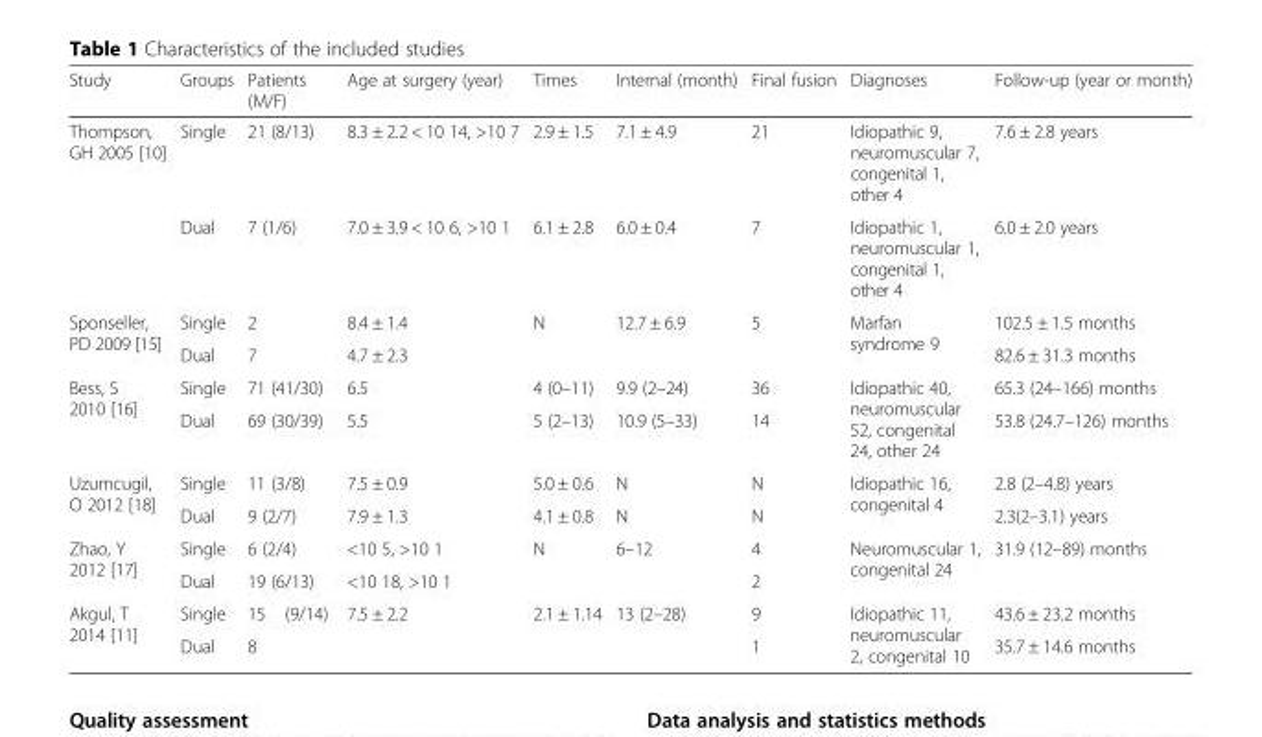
<table><thead><tr><td>Study</td><td>Groups</td><td colspan="2">Patients (M/F)</td><td>Age at surgery (year)</td><td>Times</td><td>Internal (month)</td><td>Final fusion</td><td>Diagnoses</td><td>Follow-up (year or month)</td></tr></thead><tbody><tr><td rowspan="2">Thompson, GH 2005 [10]</td><td>Single</td><td colspan="2">21 (8/13)</td><td>8.3 ± 2.2 &lt; 10 14, &gt;10 7</td><td>2.9 ± 1.5</td><td>7.1 ± 4.9</td><td>21</td><td>Idiopathic 9, neuromuscular 7, congenital 1, other 4</td><td>7.6 ± 2.8 years</td></tr><tr><td>Dual</td><td colspan="2">7 (1/6)</td><td>7.0 ± 3.9 &lt; 10 6, &gt;10 1</td><td>6.1 ± 2.8</td><td>6.0 ± 0.4</td><td>7</td><td>Idiopathic 1, neuromuscular 1, congenital 1, other 4</td><td>6.0 ± 2.0 years</td></tr><tr><td rowspan="2">Sponseller, PD 2009 [15]</td><td>Single</td><td colspan="2">2</td><td>8.4 ± 1.4</td><td rowspan="2">N</td><td rowspan="2">12.7 ± 6.9</td><td rowspan="2">5</td><td rowspan="2">Marfan syndrome 9</td><td>102.5 ± 1.5 months</td></tr><tr><td>Dual</td><td colspan="2">7</td><td>4.7 ± 2.3</td><td>82.6 ± 31.3 months</td></tr><tr><td rowspan="2">Bess, S 2010 [16]</td><td>Single</td><td colspan="2">71 (41/30)</td><td>6.5</td><td>4 (0–11)</td><td>9.9 (2–24)</td><td>36</td><td rowspan="2">Idiopathic 40, neuromuscular 52, congenital 24, other 24</td><td>65.3 (24–166) months</td></tr><tr><td>Dual</td><td colspan="2">69 (30/39)</td><td>5.5</td><td>5 (2–13)</td><td>10.9 (5–33)</td><td>14</td><td>53.8 (24.7–126) months</td></tr><tr><td rowspan="2">Uzumcugil, O 2012 [18]</td><td>Single</td><td colspan="2">11 (3/8)</td><td>7.5 ± 0.9</td><td>5.0 ± 0.6</td><td>N</td><td>N</td><td rowspan="2">Idiopathic 16, congenital 4</td><td>2.8 (2–4.8) years</td></tr><tr><td>Dual</td><td colspan="2">9 (2/7)</td><td>7.9 ± 1.3</td><td>4.1 ± 0.8</td><td>N</td><td>N</td><td>2.3(2–3.1) years</td></tr><tr><td rowspan="2">Zhao, Y 2012 [17]</td><td>Single</td><td colspan="2">6 (2/4)</td><td>&lt;10 5, &gt;10 1</td><td rowspan="2">N</td><td rowspan="2">6–12</td><td>4</td><td rowspan="2">Neuromuscular 1, congenital 24</td><td rowspan="2">31.9 (12–89) months</td></tr><tr><td>Dual</td><td colspan="2">19 (6/13)</td><td>&lt;10 18, &gt;10 1</td><td>2</td></tr><tr><td rowspan="2">Akgul, T 2014 [11]</td><td>Single</td><td>15</td><td rowspan="2">(9/14)</td><td rowspan="2">7.5 ± 2.2</td><td rowspan="2">2.1 ± 1.14</td><td rowspan="2">13 (2–28)</td><td>9</td><td rowspan="2">Idiopathic 11, neuromuscular 2, congenital 10</td><td>43.6 ± 23.2 months</td></tr><tr><td>Dual</td><td>8</td><td>1</td><td>35.7 ± 14.6 months</td></tr></tbody></table>